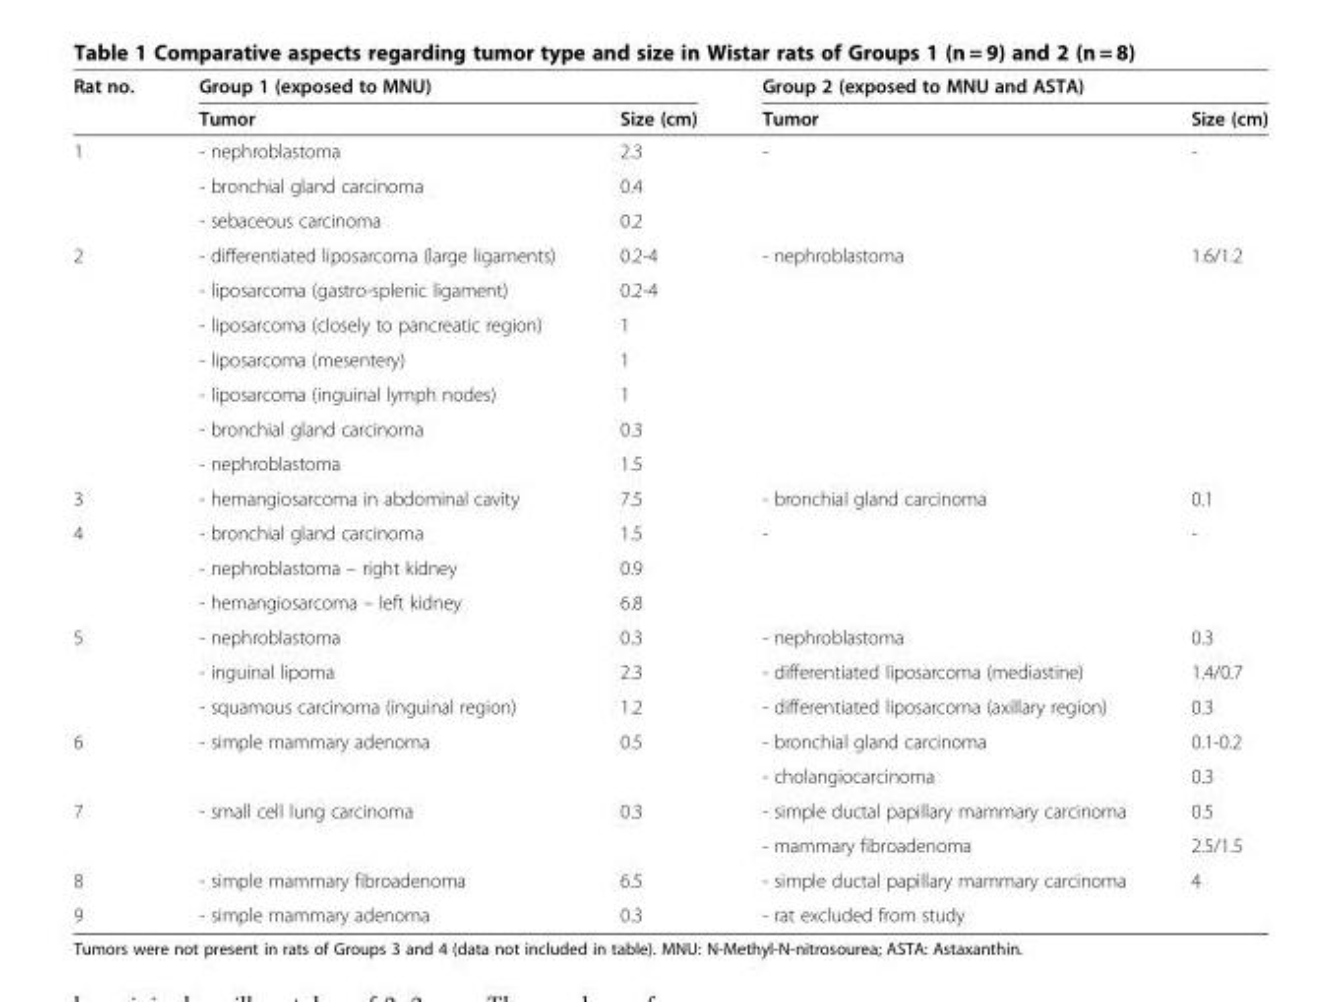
<table><thead><tr><td rowspan="2">Rat no.</td><td colspan="2">Group 1 (exposed to MNU)</td><td colspan="2">Group 2 (exposed to MNU and ASTA)</td></tr><tr><td>Tumor</td><td>Size (cm)</td><td>Tumor</td><td>Size (cm)</td></tr></thead><tbody><tr><td rowspan="3">1</td><td>- nephroblastoma</td><td>2.3</td><td rowspan="3">-</td><td rowspan="3">-</td></tr><tr><td>- bronchial gland carcinoma</td><td>0.4</td></tr><tr><td>- sebaceous carcinoma</td><td>0.2</td></tr><tr><td rowspan="7">2</td><td>- differentiated liposarcoma (large ligaments)</td><td>0.2-4</td><td rowspan="7">- nephroblastoma</td><td rowspan="7">1.6/1.2</td></tr><tr><td>- liposarcoma (gastro-splenic ligament)</td><td>0.2-4</td></tr><tr><td>- liposarcoma (closely to pancreatic region)</td><td>1</td></tr><tr><td>- liposarcoma (mesentery)</td><td>1</td></tr><tr><td>- liposarcoma (inguinal lymph nodes)</td><td>1</td></tr><tr><td>- bronchial gland carcinoma</td><td>0.3</td></tr><tr><td>- nephroblastoma</td><td>1.5</td></tr><tr><td>3</td><td>- hemangiosarcoma in abdominal cavity</td><td>7.5</td><td>- bronchial gland carcinoma</td><td>0.1</td></tr><tr><td rowspan="3">4</td><td>- bronchial gland carcinoma</td><td>1.5</td><td rowspan="3">-</td><td rowspan="3">-</td></tr><tr><td>- nephroblastoma – right kidney</td><td>0.9</td></tr><tr><td>- hemangiosarcoma – left kidney</td><td>6.8</td></tr><tr><td rowspan="3">5</td><td>- nephroblastoma</td><td>0.3</td><td>- nephroblastoma</td><td>0.3</td></tr><tr><td>- inguinal lipoma</td><td>2.3</td><td>- differentiated liposarcoma (mediastine)</td><td>1.4/0.7</td></tr><tr><td>- squamous carcinoma (inguinal region)</td><td>1.2</td><td>- differentiated liposarcoma (axillary region)</td><td>0.3</td></tr><tr><td rowspan="2">6</td><td rowspan="2">- simple mammary adenoma</td><td rowspan="2">0.5</td><td>- bronchial gland carcinoma</td><td>0.1-0.2</td></tr><tr><td>- cholangiocarcinoma</td><td>0.3</td></tr><tr><td rowspan="2">7</td><td rowspan="2">- small cell lung carcinoma</td><td rowspan="2">0.3</td><td>- simple ductal papillary mammary carcinoma</td><td>0.5</td></tr><tr><td>- mammary fibroadenoma</td><td>2.5/1.5</td></tr><tr><td>8</td><td>- simple mammary fibroadenoma</td><td>6.5</td><td>- simple ductal papillary mammary carcinoma</td><td>4</td></tr><tr><td>9</td><td>- simple mammary adenoma</td><td>0.3</td><td>- rat excluded from study</td><td></td></tr></tbody></table>